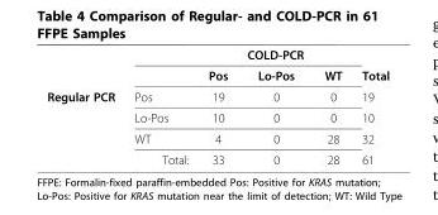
<table><thead><tr><td rowspan="2"></td><td rowspan="2"></td><td colspan="3">COLD-PCR</td><td rowspan="2">Total</td></tr><tr><td>Pos</td><td>Lo-Pos</td><td>WT</td></tr></thead><tbody><tr><td rowspan="4">Regular PCR</td><td>Pos</td><td>19</td><td>0</td><td>0</td><td>19</td></tr><tr><td>Lo-Pos</td><td>10</td><td>0</td><td>0</td><td>10</td></tr><tr><td>WT</td><td>4</td><td>0</td><td>28</td><td>32</td></tr><tr><td>Total:</td><td>33</td><td>0</td><td>28</td><td>61</td></tr></tbody></table>